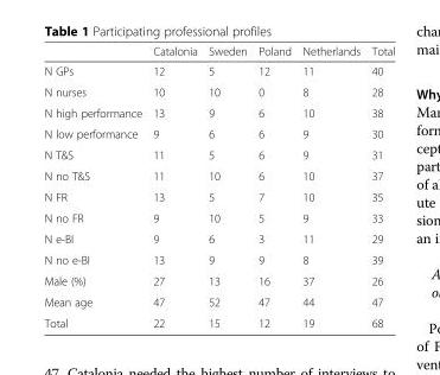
<table><thead><tr><td></td><td>Catalonia</td><td>Sweden</td><td>Poland</td><td>Netherlands</td><td>Total</td></tr></thead><tbody><tr><td>N GPs</td><td>12</td><td>5</td><td>12</td><td>11</td><td>40</td></tr><tr><td>N nurses</td><td>10</td><td>10</td><td>0</td><td>8</td><td>28</td></tr><tr><td>N high performance</td><td>13</td><td>9</td><td>6</td><td>10</td><td>38</td></tr><tr><td>N low performance</td><td>9</td><td>6</td><td>6</td><td>9</td><td>30</td></tr><tr><td>N T&amp;S</td><td>11</td><td>5</td><td>6</td><td>9</td><td>31</td></tr><tr><td>N no T&amp;S</td><td>11</td><td>10</td><td>6</td><td>10</td><td>37</td></tr><tr><td>N FR</td><td>13</td><td>5</td><td>7</td><td>10</td><td>35</td></tr><tr><td>N no FR</td><td>9</td><td>10</td><td>5</td><td>9</td><td>33</td></tr><tr><td>N e-BI</td><td>9</td><td>6</td><td>3</td><td>11</td><td>29</td></tr><tr><td>N no e-BI</td><td>13</td><td>9</td><td>9</td><td>8</td><td>39</td></tr><tr><td>Male (%)</td><td>27</td><td>13</td><td>16</td><td>37</td><td>26</td></tr><tr><td>Mean age</td><td>47</td><td>52</td><td>47</td><td>44</td><td>47</td></tr><tr><td>Total</td><td>22</td><td>15</td><td>12</td><td>19</td><td>68</td></tr></tbody></table>